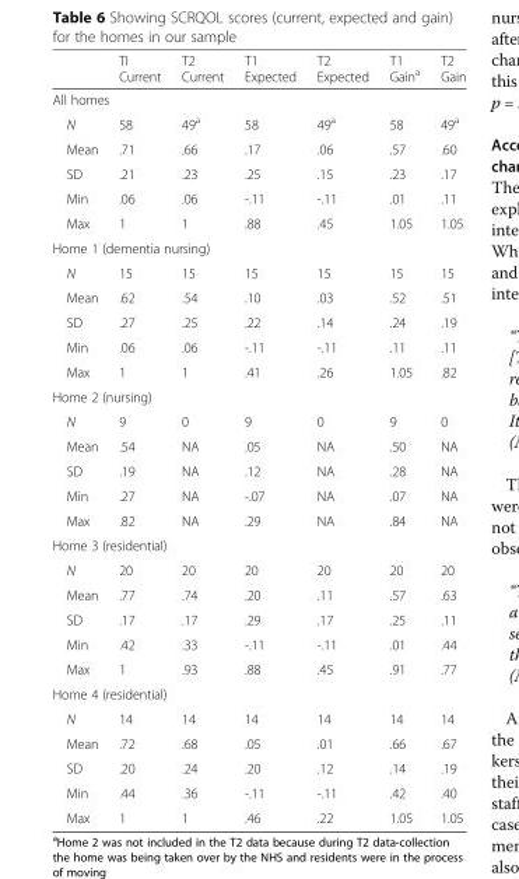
<table><thead><tr><td></td><td>TI Current</td><td>T2 Current</td><td>T1 Expected</td><td>T2 Expected</td><td>T1 Gain<sup>a</sup></td><td>T2 Gain</td></tr></thead><tbody><tr><td colspan="7">All homes</td></tr><tr><td>N</td><td>58</td><td>49<sup>a</sup></td><td>58</td><td>49<sup>a</sup></td><td>58</td><td>49<sup>a</sup></td></tr><tr><td>Mean</td><td>.71</td><td>.66</td><td>.17</td><td>.06</td><td>.57</td><td>.60</td></tr><tr><td>SD</td><td>.21</td><td>.23</td><td>.25</td><td>.15</td><td>.23</td><td>.17</td></tr><tr><td>Min</td><td>.06</td><td>.06</td><td>-.11</td><td>-.11</td><td>.01</td><td>.11</td></tr><tr><td>Max</td><td>1</td><td>1</td><td>.88</td><td>.45</td><td>1.05</td><td>1.05</td></tr><tr><td colspan="7">Home 1 (dementia nursing)</td></tr><tr><td>N</td><td>15</td><td>15</td><td>15</td><td>15</td><td>15</td><td>15</td></tr><tr><td>Mean</td><td>.62</td><td>.54</td><td>.10</td><td>.03</td><td>.52</td><td>.51</td></tr><tr><td>SD</td><td>.27</td><td>.25</td><td>.22</td><td>.14</td><td>.24</td><td>.19</td></tr><tr><td>Min</td><td>.06</td><td>.06</td><td>-.11</td><td>-.11</td><td>.11</td><td>.11</td></tr><tr><td>Max</td><td>1</td><td>1</td><td>.41</td><td>.26</td><td>1.05</td><td>.82</td></tr><tr><td colspan="7">Home 2 (nursing)</td></tr><tr><td>N</td><td>9</td><td>0</td><td>9</td><td>0</td><td>9</td><td>0</td></tr><tr><td>Mean</td><td>.54</td><td>NA</td><td>.05</td><td>NA</td><td>.50</td><td>NA</td></tr><tr><td>SD</td><td>.19</td><td>NA</td><td>.12</td><td>NA</td><td>.28</td><td>NA</td></tr><tr><td>Min</td><td>.27</td><td>NA</td><td>-.07</td><td>NA</td><td>.07</td><td>NA</td></tr><tr><td>Max</td><td>.82</td><td>NA</td><td>.29</td><td>NA</td><td>.84</td><td>NA</td></tr><tr><td colspan="7">Home 3 (residential)</td></tr><tr><td>N</td><td>20</td><td>20</td><td>20</td><td>20</td><td>20</td><td>20</td></tr><tr><td>Mean</td><td>.77</td><td>.74</td><td>.20</td><td>.11</td><td>.57</td><td>.63</td></tr><tr><td>SD</td><td>.17</td><td>.17</td><td>.29</td><td>.17</td><td>.25</td><td>.11</td></tr><tr><td>Min</td><td>.42</td><td>.33</td><td>-.11</td><td>-.11</td><td>.01</td><td>.44</td></tr><tr><td>Max</td><td>1</td><td>.93</td><td>.88</td><td>.45</td><td>.91</td><td>.77</td></tr><tr><td colspan="7">Home 4 (residential)</td></tr><tr><td>N</td><td>14</td><td>14</td><td>14</td><td>14</td><td>14</td><td>14</td></tr><tr><td>Mean</td><td>.72</td><td>.68</td><td>.05</td><td>.01</td><td>.66</td><td>.67</td></tr><tr><td>SD</td><td>.20</td><td>.24</td><td>.20</td><td>.12</td><td>.14</td><td>.19</td></tr><tr><td>Min</td><td>.44</td><td>.36</td><td>-.11</td><td>-.11</td><td>.42</td><td>.40</td></tr><tr><td>Max</td><td>1</td><td>1</td><td>.46</td><td>.22</td><td>1.05</td><td>1.05</td></tr></tbody></table>